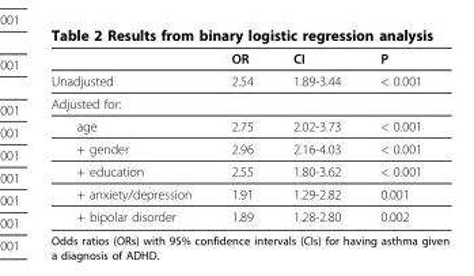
<table><thead><tr><td></td><td>OR</td><td>CI</td><td>P</td></tr></thead><tbody><tr><td>Unadjusted</td><td>2.54</td><td>1.89-3.44</td><td>&lt; 0.001</td></tr><tr><td colspan="4">Adjusted for:</td></tr><tr><td>age</td><td>2.75</td><td>2.02-3.73</td><td>&lt; 0.001</td></tr><tr><td>+ gender</td><td>2.96</td><td>2.16-4.03</td><td>&lt; 0.001</td></tr><tr><td>+ education</td><td>2.55</td><td>1.80-3.62</td><td>&lt; 0.001</td></tr><tr><td>+ anxiety/depression</td><td>1.91</td><td>1.29-2.82</td><td>0.001</td></tr><tr><td>+ bipolar disorder</td><td>1.89</td><td>1.28-2.80</td><td>0.002</td></tr></tbody></table>